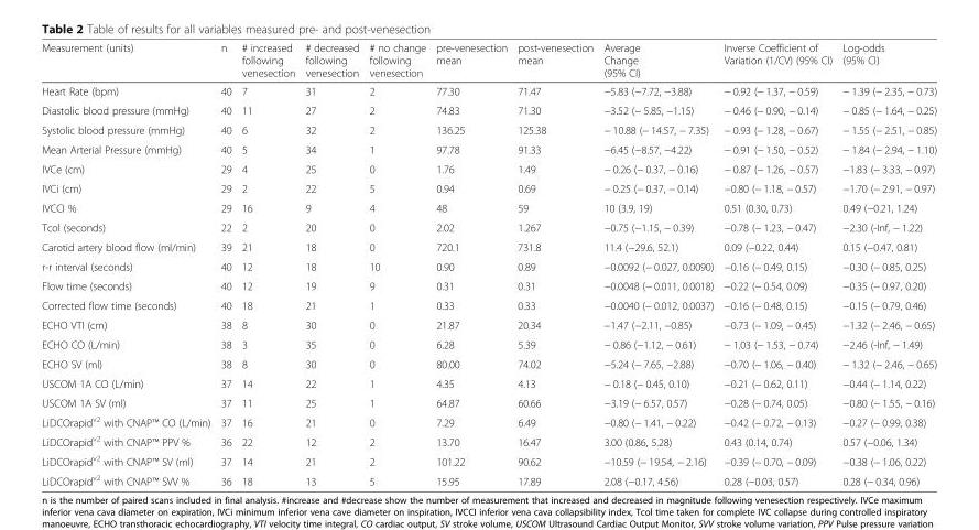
<table><thead><tr><td>Measurement (units)</td><td>n</td><td># increased following venesection</td><td># decreased following venesection</td><td># no change following venesection</td><td>pre-venesection mean</td><td>post-venesection mean</td><td>Average Change (95% CI)</td><td>Inverse Coefficient of Variation (1/CV) (95% CI)</td><td>Log-odds (95% CI)</td></tr></thead><tbody><tr><td>Heart Rate (bpm)</td><td>40</td><td>7</td><td>31</td><td>2</td><td>77.30</td><td>71.47</td><td>−5.83 (−7.72, −3.88)</td><td>− 0.92 (− 1.37, − 0.59)</td><td>− 1.39 (− 2.35, − 0.73)</td></tr><tr><td>Diastolic blood pressure (mmHg)</td><td>40</td><td>11</td><td>27</td><td>2</td><td>74.83</td><td>71.30</td><td>−3.52 (− 5.85, −1.15)</td><td>− 0.46 (− 0.90, − 0.14)</td><td>− 0.85 (− 1.64, − 0.25)</td></tr><tr><td>Systolic blood pressure (mmHg)</td><td>40</td><td>6</td><td>32</td><td>2</td><td>136.25</td><td>125.38</td><td>− 10.88 (− 14.57, − 7.35)</td><td>− 0.93 (− 1.28, − 0.67)</td><td>− 1.55 (− 2.51, − 0.85)</td></tr><tr><td>Mean Arterial Pressure (mmHg)</td><td>40</td><td>5</td><td>34</td><td>1</td><td>97.78</td><td>91.33</td><td>−6.45 (−8.57, −4.22)</td><td>− 0.91 (− 1.50, − 0.52)</td><td>− 1.84 (− 2.94, − 1.10)</td></tr><tr><td>IVCe (cm)</td><td>29</td><td>4</td><td>25</td><td>0</td><td>1.76</td><td>1.49</td><td>− 0.26 (− 0.37, − 0.16)</td><td>− 0.87 (− 1.26, − 0.57)</td><td>−1.83 (− 3.33, − 0.97)</td></tr><tr><td>IVCi (cm)</td><td>29</td><td>2</td><td>22</td><td>5</td><td>0.94</td><td>0.69</td><td>− 0.25 (− 0.37, − 0.14)</td><td>−0.80 (− 1.18, − 0.57)</td><td>−1.70 (− 2.91, − 0.97)</td></tr><tr><td>IVCCI %</td><td>29</td><td>16</td><td>9</td><td>4</td><td>48</td><td>59</td><td>10 (3.9, 19)</td><td>0.51 (0.30, 0.73)</td><td>0.49 (−0.21, 1.24)</td></tr><tr><td>Tcol (seconds)</td><td>22</td><td>2</td><td>20</td><td>0</td><td>2.02</td><td>1.267</td><td>−0.75 (−1.15, − 0.39)</td><td>−0.78 (− 1.23, − 0.47)</td><td>−2.30 (-Inf, − 1.22)</td></tr><tr><td>Carotid artery blood flow (ml/min)</td><td>39</td><td>21</td><td>18</td><td>0</td><td>720.1</td><td>731.8</td><td>11.4 (−29.6, 52.1)</td><td>0.09 (−0.22, 0.44)</td><td>0.15 (−0.47, 0.81)</td></tr><tr><td>r-r interval (seconds)</td><td>40</td><td>12</td><td>18</td><td>10</td><td>0.90</td><td>0.89</td><td>−0.0092 (− 0.027, 0.0090)</td><td>−0.16 (− 0.49, 0.15)</td><td>−0.30 (− 0.85, 0.25)</td></tr><tr><td>Flow time (seconds)</td><td>40</td><td>12</td><td>19</td><td>9</td><td>0.31</td><td>0.31</td><td>−0.0048 (− 0.011, 0.0018)</td><td>−0.22 (− 0.54, 0.09)</td><td>−0.35 (− 0.97, 0.20)</td></tr><tr><td>Corrected flow time (seconds)</td><td>40</td><td>18</td><td>21</td><td>1</td><td>0.33</td><td>0.33</td><td>−0.0040 (− 0.012, 0.0037)</td><td>−0.16 (− 0.48, 0.15)</td><td>−0.15 (− 0.79, 0.46)</td></tr><tr><td>ECHO VTI (cm)</td><td>38</td><td>8</td><td>30</td><td>0</td><td>21.87</td><td>20.34</td><td>−1.47 (−2.11, −0.85)</td><td>−0.73 (− 1.09, − 0.45)</td><td>−1.32 (− 2.46, − 0.65)</td></tr><tr><td>ECHO CO (L/min)</td><td>38</td><td>3</td><td>35</td><td>0</td><td>6.28</td><td>5.39</td><td>− 0.86 (−1.12, − 0.61)</td><td>− 1.03 (− 1.53, − 0.74)</td><td>−2.46 (-Inf, − 1.49)</td></tr><tr><td>ECHO SV (ml)</td><td>38</td><td>8</td><td>30</td><td>0</td><td>80.00</td><td>74.02</td><td>−5.24 (− 7.65, −2.88)</td><td>−0.70 (− 1.06, − 0.40)</td><td>− 1.32 (− 2.46, − 0.65)</td></tr><tr><td>USCOM 1A CO (L/min)</td><td>37</td><td>14</td><td>22</td><td>1</td><td>4.35</td><td>4.13</td><td>− 0.18 (− 0.45, 0.10)</td><td>−0.21 (− 0.62, 0.11)</td><td>−0.44 (− 1.14, 0.22)</td></tr><tr><td>USCOM 1A SV (ml)</td><td>37</td><td>11</td><td>25</td><td>1</td><td>64.87</td><td>60.66</td><td>−3.19 (− 6.57, 0.57)</td><td>−0.28 (− 0.74, 0.05)</td><td>−0.80 (− 1.55, − 0.16)</td></tr><tr><td>LiDCOrapid<sup>v2</sup> with CNAP™ CO (L/min)</td><td>37</td><td>16</td><td>21</td><td>0</td><td>7.29</td><td>6.49</td><td>−0.80 (− 1.41, − 0.22)</td><td>−0.42 (− 0.72, − 0.13)</td><td>−0.27 (− 0.99, 0.38)</td></tr><tr><td>LiDCOrapid<sup>v2</sup> with CNAP™ PPV %</td><td>36</td><td>22</td><td>12</td><td>2</td><td>13.70</td><td>16.47</td><td>3.00 (0.86, 5.28)</td><td>0.43 (0.14, 0.74)</td><td>0.57 (−0.06, 1.34)</td></tr><tr><td>LiDCOrapid<sup>v2</sup> with CNAP™ SV (ml)</td><td>37</td><td>14</td><td>21</td><td>2</td><td>101.22</td><td>90.62</td><td>−10.59 (− 19.54, − 2.16)</td><td>−0.39 (− 0.70, − 0.09)</td><td>−0.38 (− 1.06, 0.22)</td></tr><tr><td>LiDCOrapid<sup>v2</sup> with CNAP™ SVV %</td><td>36</td><td>18</td><td>13</td><td>5</td><td>15.95</td><td>17.89</td><td>2.08 (−0.17, 4.56)</td><td>0.28 (−0.03, 0.57)</td><td>0.28 (− 0.34, 0.96)</td></tr></tbody></table>